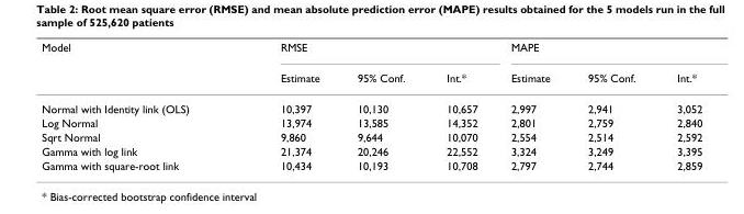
<table><thead><tr><td rowspan="2">Model</td><td colspan="3">RMSE</td><td colspan="3">MAPE</td></tr><tr><td>Estimate</td><td>95% Conf.</td><td>Int.*</td><td>Estimate</td><td>95% Conf.</td><td>Int.*</td></tr></thead><tbody><tr><td>Normal with Identity link (OLS)</td><td>10,397</td><td>10,130</td><td>10,657</td><td>2,997</td><td>2,941</td><td>3,052</td></tr><tr><td>Log Normal</td><td>13,974</td><td>13,585</td><td>14,352</td><td>2,801</td><td>2,759</td><td>2,840</td></tr><tr><td>Sqrt Normal</td><td>9,860</td><td>9,644</td><td>10,070</td><td>2,554</td><td>2,514</td><td>2,592</td></tr><tr><td>Gamma with log link</td><td>21,374</td><td>20,246</td><td>22,552</td><td>3,324</td><td>3,249</td><td>3,395</td></tr><tr><td>Gamma with square-root link</td><td>10,434</td><td>10,193</td><td>10,708</td><td>2,797</td><td>2,744</td><td>2,859</td></tr></tbody></table>